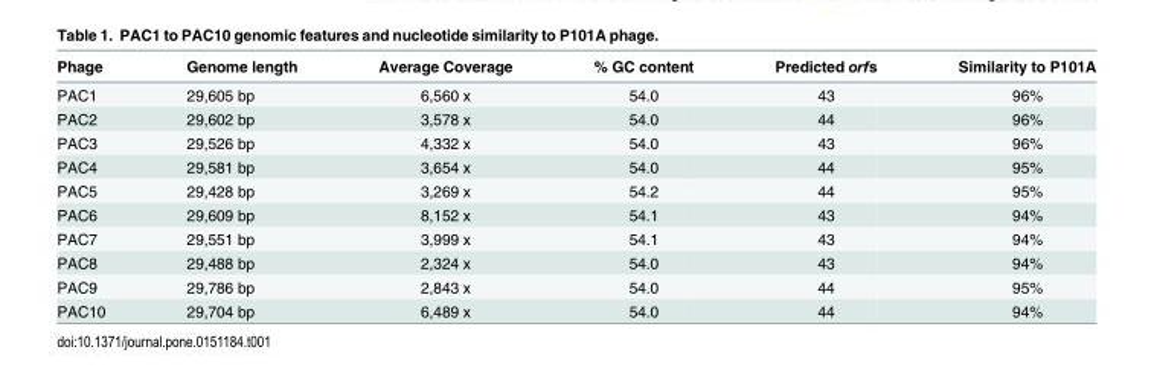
<table><thead><tr><td>Phage</td><td>Genome length</td><td>Average Coverage</td><td>% GC content</td><td>Predicted orfs</td><td>Similarity to P101A</td></tr></thead><tbody><tr><td>PAC1</td><td>29,605 bp</td><td>6,560 x</td><td>54.0</td><td>43</td><td>96%</td></tr><tr><td>PAC2</td><td>29,602 bp</td><td>3,578 x</td><td>54.0</td><td>44</td><td>96%</td></tr><tr><td>PAC3</td><td>29,526 bp</td><td>4,332 x</td><td>54.0</td><td>43</td><td>96%</td></tr><tr><td>PAC4</td><td>29,581 bp</td><td>3,654 x</td><td>54.0</td><td>44</td><td>95%</td></tr><tr><td>PAC5</td><td>29,428 bp</td><td>3,269 x</td><td>54.2</td><td>44</td><td>95%</td></tr><tr><td>PAC6</td><td>29,609 bp</td><td>8,152 x</td><td>54.1</td><td>43</td><td>94%</td></tr><tr><td>PAC7</td><td>29,551 bp</td><td>3,999 x</td><td>54.1</td><td>43</td><td>94%</td></tr><tr><td>PAC8</td><td>29,488 bp</td><td>2,324 x</td><td>54.0</td><td>43</td><td>94%</td></tr><tr><td>PAC9</td><td>29,786 bp</td><td>2,843 x</td><td>54.0</td><td>44</td><td>95%</td></tr><tr><td>PAC10</td><td>29,704 bp</td><td>6,489 x</td><td>54.0</td><td>44</td><td>94%</td></tr></tbody></table>